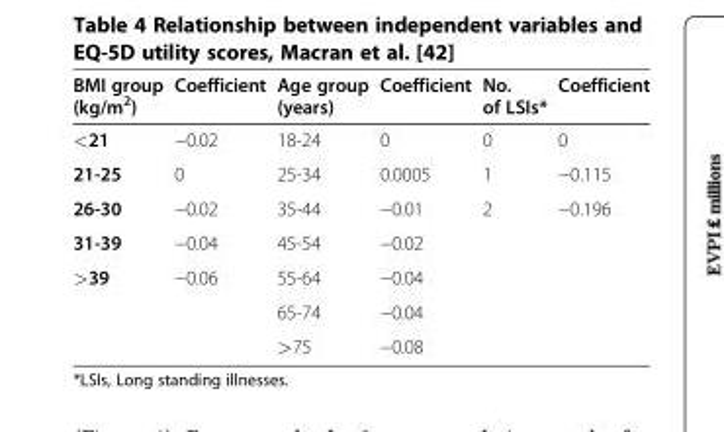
<table><thead><tr><td>BMI group (kg/m<sup>2</sup>)</td><td>Coefficient</td><td>Age group (years)</td><td>Coefficient</td><td>No. of LSIs*</td><td>Coefficient</td></tr></thead><tbody><tr><td>&lt;21</td><td>−0.02</td><td>18-24</td><td>0</td><td>0</td><td>0</td></tr><tr><td>21-25</td><td>0</td><td>25-34</td><td>0.0005</td><td>1</td><td>−0.115</td></tr><tr><td>26-30</td><td>−0.02</td><td>35-44</td><td>−0.01</td><td>2</td><td>−0.196</td></tr><tr><td>31-39</td><td>−0.04</td><td>45-54</td><td>−0.02</td><td></td><td></td></tr><tr><td rowspan="3">&gt;39</td><td>−0.06</td><td>55-64</td><td>−0.04</td><td></td><td></td></tr><tr><td></td><td>65-74</td><td>−0.04</td><td></td><td></td></tr><tr><td></td><td>&gt;75</td><td>−0.08</td><td></td><td></td></tr></tbody></table>